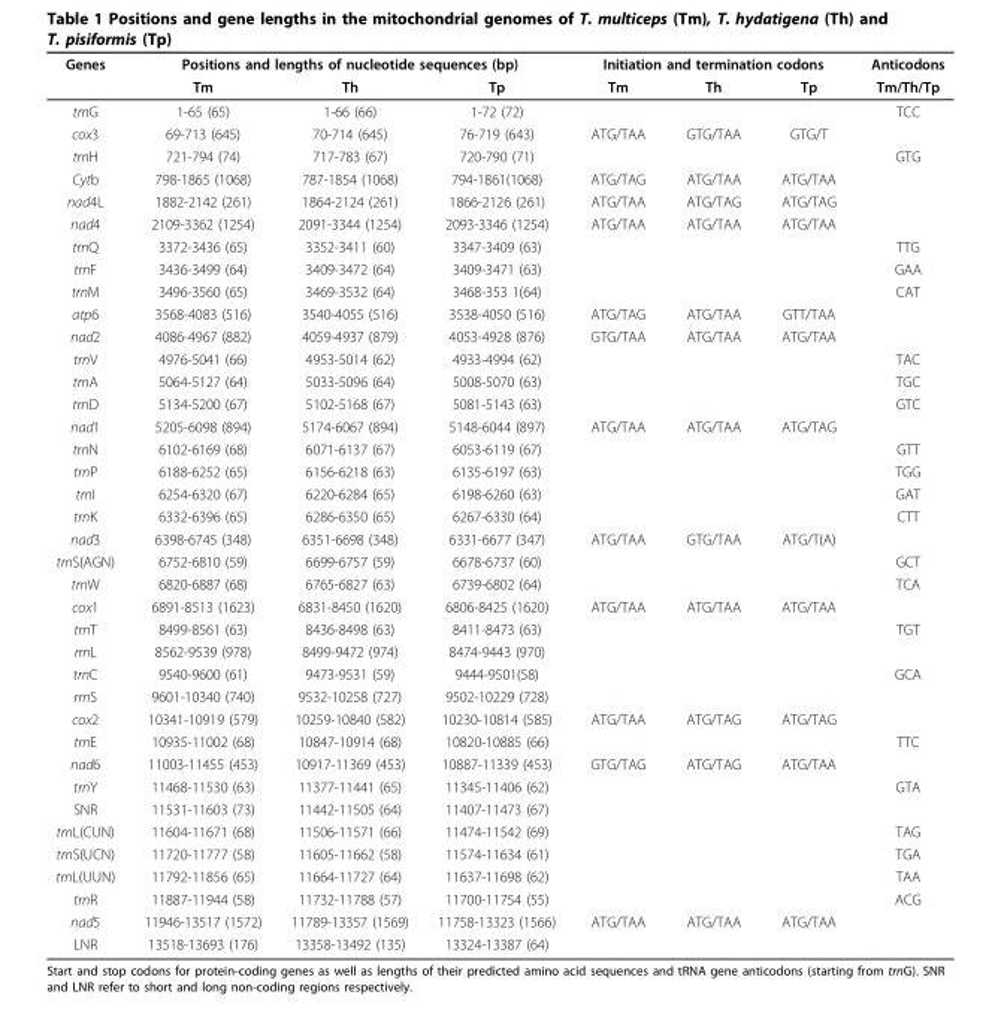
<table><thead><tr><td rowspan="2">Genes</td><td colspan="3">Positions and lengths of nucleotide sequences (bp)</td><td colspan="3">Initiation and termination codons</td><td rowspan="2">Anticodons Tm/Th/Tp</td></tr><tr><td>Tm</td><td>Th</td><td>Tp</td><td>Tm</td><td>Th</td><td>Tp</td></tr></thead><tbody><tr><td>trnG</td><td>1-65 (65)</td><td>1-66 (66)</td><td>1-72 (72)</td><td></td><td></td><td></td><td>TCC</td></tr><tr><td>cox3</td><td>69-713 (645)</td><td>70-714 (645)</td><td>76-719 (643)</td><td>ATG/TAA</td><td>GTG/TAA</td><td>GTG/T</td><td></td></tr><tr><td>trnH</td><td>721-794 (74)</td><td>717-783 (67)</td><td>720-790 (71)</td><td></td><td></td><td></td><td>GTG</td></tr><tr><td>Cytb</td><td>798-1865 (1068)</td><td>787-1854 (1068)</td><td>794-1861(1068)</td><td>ATG/TAG</td><td>ATG/TAA</td><td>ATG/TAA</td><td></td></tr><tr><td>nad4L</td><td>1882-2142 (261)</td><td>1864-2124 (261)</td><td>1866-2126 (261)</td><td>ATG/TAA</td><td>ATG/TAG</td><td>ATG/TAG</td><td></td></tr><tr><td>nad4</td><td>2109-3362 (1254)</td><td>2091-3344 (1254)</td><td>2093-3346 (1254)</td><td>ATG/TAA</td><td>ATG/TAA</td><td>ATG/TAA</td><td></td></tr><tr><td>trnQ</td><td>3372-3436 (65)</td><td>3352-3411 (60)</td><td>3347-3409 (63)</td><td></td><td></td><td></td><td>TTG</td></tr><tr><td>trnF</td><td>3436-3499 (64)</td><td>3409-3472 (64)</td><td>3409-3471 (63)</td><td></td><td></td><td></td><td>GAA</td></tr><tr><td>trnM</td><td>3496-3560 (65)</td><td>3469-3532 (64)</td><td>3468-353 1(64)</td><td></td><td></td><td></td><td>CAT</td></tr><tr><td>atp6</td><td>3568-4083 (516)</td><td>3540-4055 (516)</td><td>3538-4050 (516)</td><td>ATG/TAG</td><td>ATG/TAA</td><td>GTT/TAA</td><td></td></tr><tr><td>nad2</td><td>4086-4967 (882)</td><td>4059-4937 (879)</td><td>4053-4928 (876)</td><td>GTG/TAA</td><td>ATG/TAA</td><td>ATG/TAA</td><td></td></tr><tr><td>trnV</td><td>4976-5041 (66)</td><td>4953-5014 (62)</td><td>4933-4994 (62)</td><td></td><td></td><td></td><td>TAC</td></tr><tr><td>trnA</td><td>5064-5127 (64)</td><td>5033-5096 (64)</td><td>5008-5070 (63)</td><td></td><td></td><td></td><td>TGC</td></tr><tr><td>trnD</td><td>5134-5200 (67)</td><td>5102-5168 (67)</td><td>5081-5143 (63)</td><td></td><td></td><td></td><td>GTC</td></tr><tr><td>nad1</td><td>5205-6098 (894)</td><td>5174-6067 (894)</td><td>5148-6044 (897)</td><td>ATG/TAA</td><td>ATG/TAA</td><td>ATG/TAG</td><td></td></tr><tr><td>trnN</td><td>6102-6169 (68)</td><td>6071-6137 (67)</td><td>6053-6119 (67)</td><td></td><td></td><td></td><td>GTT</td></tr><tr><td>trnP</td><td>6188-6252 (65)</td><td>6156-6218 (63)</td><td>6135-6197 (63)</td><td></td><td></td><td></td><td>TGG</td></tr><tr><td>trnI</td><td>6254-6320 (67)</td><td>6220-6284 (65)</td><td>6198-6260 (63)</td><td></td><td></td><td></td><td>GAT</td></tr><tr><td>trnK</td><td>6332-6396 (65)</td><td>6286-6350 (65)</td><td>6267-6330 (64)</td><td></td><td></td><td></td><td>CTT</td></tr><tr><td>nad3</td><td>6398-6745 (348)</td><td>6351-6698 (348)</td><td>6331-6677 (347)</td><td>ATG/TAA</td><td>GTG/TAA</td><td>ATG/T(A)</td><td></td></tr><tr><td>trnS(AGN)</td><td>6752-6810 (59)</td><td>6699-6757 (59)</td><td>6678-6737 (60)</td><td></td><td></td><td></td><td>GCT</td></tr><tr><td>trnW</td><td>6820-6887 (68)</td><td>6765-6827 (63)</td><td>6739-6802 (64)</td><td></td><td></td><td></td><td>TCA</td></tr><tr><td>cox1</td><td>6891-8513 (1623)</td><td>6831-8450 (1620)</td><td>6806-8425 (1620)</td><td>ATG/TAA</td><td>ATG/TAA</td><td>ATG/TAA</td><td></td></tr><tr><td>trnT</td><td>8499-8561 (63)</td><td>8436-8498 (63)</td><td>8411-8473 (63)</td><td></td><td></td><td></td><td>TGT</td></tr><tr><td>rrnL</td><td>8562-9539 (978)</td><td>8499-9472 (974)</td><td>8474-9443 (970)</td><td></td><td></td><td></td><td></td></tr><tr><td>trnC</td><td>9540-9600 (61)</td><td>9473-9531 (59)</td><td>9444-9501(58)</td><td></td><td></td><td></td><td>GCA</td></tr><tr><td>rrnS</td><td>9601-10340 (740)</td><td>9532-10258 (727)</td><td>9502-10229 (728)</td><td></td><td></td><td></td><td></td></tr><tr><td>cox2</td><td>10341-10919 (579)</td><td>10259-10840 (582)</td><td>10230-10814 (585)</td><td>ATG/TAA</td><td>ATG/TAG</td><td>ATG/TAG</td><td></td></tr><tr><td>trnE</td><td>10935-11002 (68)</td><td>10847-10914 (68)</td><td>10820-10885 (66)</td><td></td><td></td><td></td><td>TTC</td></tr><tr><td>nad6</td><td>11003-11455 (453)</td><td>10917-11369 (453)</td><td>10887-11339 (453)</td><td>GTG/TAG</td><td>ATG/TAG</td><td>ATG/TAA</td><td></td></tr><tr><td>trnY</td><td>11468-11530 (63)</td><td>11377-11441 (65)</td><td>11345-11406 (62)</td><td></td><td></td><td></td><td>GTA</td></tr><tr><td>SNR</td><td>11531-11603 (73)</td><td>11442-11505 (64)</td><td>11407-11473 (67)</td><td></td><td></td><td></td><td></td></tr><tr><td>trnL(CUN)</td><td>11604-11671 (68)</td><td>11506-11571 (66)</td><td>11474-11542 (69)</td><td></td><td></td><td></td><td>TAG</td></tr><tr><td>trnS(UCN)</td><td>11720-11777 (58)</td><td>11605-11662 (58)</td><td>11574-11634 (61)</td><td></td><td></td><td></td><td>TGA</td></tr><tr><td>trnL(UUN)</td><td>11792-11856 (65)</td><td>11664-11727 (64)</td><td>11637-11698 (62)</td><td></td><td></td><td></td><td>TAA</td></tr><tr><td>trnR</td><td>11887-11944 (58)</td><td>11732-11788 (57)</td><td>11700-11754 (55)</td><td></td><td></td><td></td><td>ACG</td></tr><tr><td>nad5</td><td>11946-13517 (1572)</td><td>11789-13357 (1569)</td><td>11758-13323 (1566)</td><td>ATG/TAA</td><td>ATG/TAA</td><td>ATG/TAA</td><td></td></tr><tr><td>LNR</td><td>13518-13693 (176)</td><td>13358-13492 (135)</td><td>13324-13387 (64)</td><td></td><td></td><td></td><td></td></tr></tbody></table>